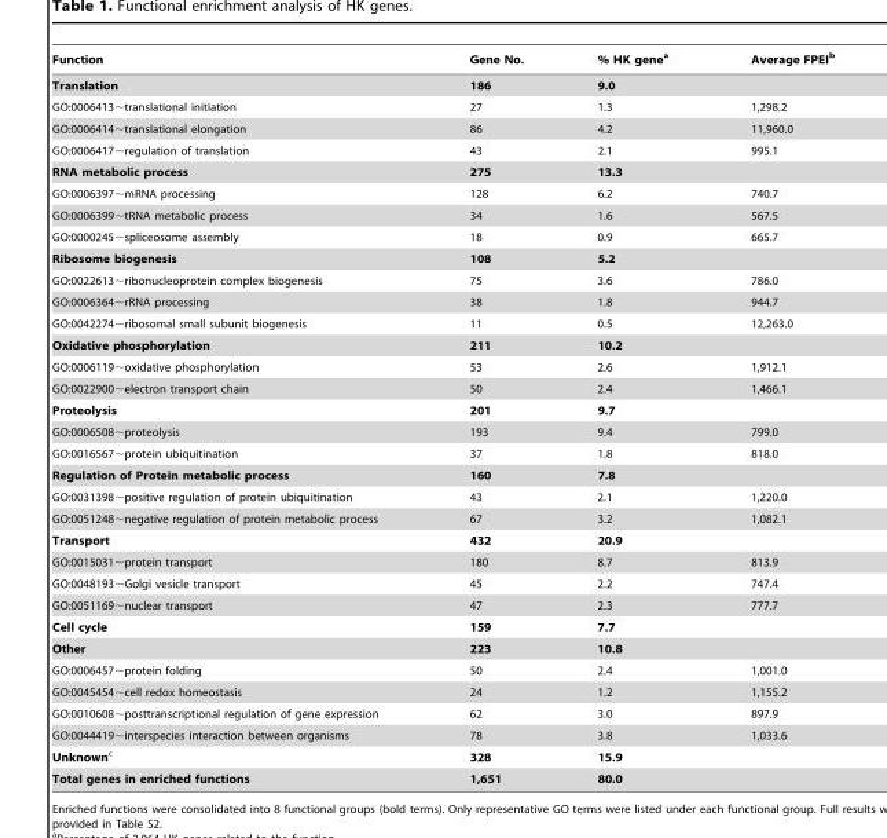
<table><thead><tr><td>Function</td><td>Gene No.</td><td>% HK gene<sup>a</sup></td><td>Average FPEI<sup>b</sup></td></tr></thead><tbody><tr><td>Translation</td><td>186</td><td>9.0</td><td></td></tr><tr><td>GO:0006413∼translational initiation</td><td>27</td><td>1.3</td><td>1,298.2</td></tr><tr><td>GO:0006414∼translational elongation</td><td>86</td><td>4.2</td><td>11,960.0</td></tr><tr><td>GO:0006417∼regulation of translation</td><td>43</td><td>2.1</td><td>995.1</td></tr><tr><td>RNA metabolic process</td><td>275</td><td>13.3</td><td></td></tr><tr><td>GO:0006397∼mRNA processing</td><td>128</td><td>6.2</td><td>740.7</td></tr><tr><td>GO:0006399∼tRNA metabolic process</td><td>34</td><td>1.6</td><td>567.5</td></tr><tr><td>GO:0000245∼spliceosome assembly</td><td>18</td><td>0.9</td><td>665.7</td></tr><tr><td>Ribosome biogenesis</td><td>108</td><td>5.2</td><td></td></tr><tr><td>GO:0022613∼ribonucleoprotein complex biogenesis</td><td>75</td><td>3.6</td><td>786.0</td></tr><tr><td>GO:0006364∼rRNA processing</td><td>38</td><td>1.8</td><td>944.7</td></tr><tr><td>GO:0042274∼ribosomal small subunit biogenesis</td><td>11</td><td>0.5</td><td>12,263.0</td></tr><tr><td>Oxidative phosphorylation</td><td>211</td><td>10.2</td><td></td></tr><tr><td>GO:0006119∼oxidative phosphorylation</td><td>53</td><td>2.6</td><td>1,912.1</td></tr><tr><td>GO:0022900∼electron transport chain</td><td>50</td><td>2.4</td><td>1,466.1</td></tr><tr><td>Proteolysis</td><td>201</td><td>9.7</td><td></td></tr><tr><td>GO:0006508∼proteolysis</td><td>193</td><td>9.4</td><td>799.0</td></tr><tr><td>GO:0016567∼protein ubiquitination</td><td>37</td><td>1.8</td><td>818.0</td></tr><tr><td>Regulation of Protein metabolic process</td><td>160</td><td>7.8</td><td></td></tr><tr><td>GO:0031398∼positive regulation of protein ubiquitination</td><td>43</td><td>2.1</td><td>1,220.0</td></tr><tr><td>GO:0051248∼negative regulation of protein metabolic process</td><td>67</td><td>3.2</td><td>1,082.1</td></tr><tr><td>Transport</td><td>432</td><td>20.9</td><td></td></tr><tr><td>GO:0015031∼protein transport</td><td>180</td><td>8.7</td><td>813.9</td></tr><tr><td>GO:0048193∼Golgi vesicle transport</td><td>45</td><td>2.2</td><td>747.4</td></tr><tr><td>GO:0051169∼nuclear transport</td><td>47</td><td>2.3</td><td>777.7</td></tr><tr><td>Cell cycle</td><td>159</td><td>7.7</td><td></td></tr><tr><td>Other</td><td>223</td><td>10.8</td><td></td></tr><tr><td>GO:0006457∼protein folding</td><td>50</td><td>2.4</td><td>1,001.0</td></tr><tr><td>GO:0045454∼cell redox homeostasis</td><td>24</td><td>1.2</td><td>1,155.2</td></tr><tr><td>GO:0010608∼posttranscriptional regulation of gene expression</td><td>62</td><td>3.0</td><td>897.9</td></tr><tr><td>GO:0044419∼interspecies interaction between organisms</td><td>78</td><td>3.8</td><td>1,033.6</td></tr><tr><td>Unknownc</td><td>328</td><td>15.9</td><td></td></tr><tr><td>Total genes in enriched functions</td><td>1,651</td><td>80.0</td><td></td></tr></tbody></table>